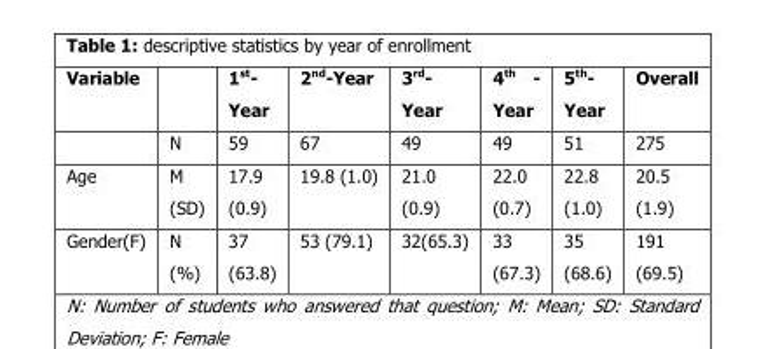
<table><thead><tr><td>Variable</td><td></td><td>1<sup>st</sup>- Year</td><td>2<sup>nd</sup>-Year</td><td>3<sup>rd</sup>- Year</td><td>4<sup>th</sup> - Year</td><td>5<sup>th</sup>- Year</td><td>Overall</td></tr></thead><tbody><tr><td></td><td>N</td><td>59</td><td>67</td><td>49</td><td>49</td><td>51</td><td>275</td></tr><tr><td>Age</td><td>M (SD)</td><td>17.9 (0.9)</td><td>19.8 (1.0)</td><td>21.0 (0.9)</td><td>22.0 (0.7)</td><td>22.8 (1.0)</td><td>20.5 (1.9)</td></tr><tr><td>Gender(F)</td><td>N (%)</td><td>37 (63.8)</td><td>53 (79.1)</td><td>32(65.3)</td><td>33 (67.3)</td><td>35 (68.6)</td><td>191 (69.5)</td></tr></tbody></table>